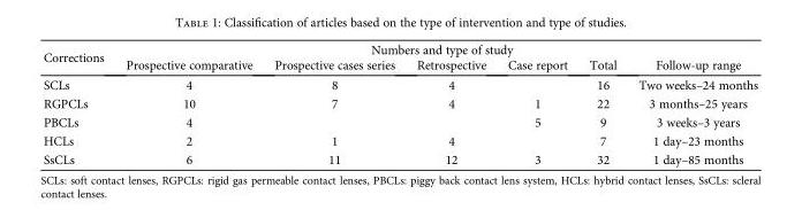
<table><thead><tr><td rowspan="2">Corrections</td><td colspan="6">Numbers and type of study</td></tr><tr><td>Prospective comparative</td><td>Prospective cases series</td><td>Retrospective</td><td>Case report</td><td>Total</td><td>Follow-up range</td></tr></thead><tbody><tr><td>SCLs</td><td>4</td><td>8</td><td>4</td><td></td><td>16</td><td>Two weeks–24 months</td></tr><tr><td>RGPCLs</td><td>10</td><td>7</td><td>4</td><td>1</td><td>22</td><td>3 months–25 years</td></tr><tr><td>PBCLs</td><td>4</td><td></td><td></td><td>5</td><td>9</td><td>3 weeks–3 years</td></tr><tr><td>HCLs</td><td>2</td><td>1</td><td>4</td><td></td><td>7</td><td>1 day–23 months</td></tr><tr><td>SsCLs</td><td>6</td><td>11</td><td>12</td><td>3</td><td>32</td><td>1 day–85 months</td></tr></tbody></table>